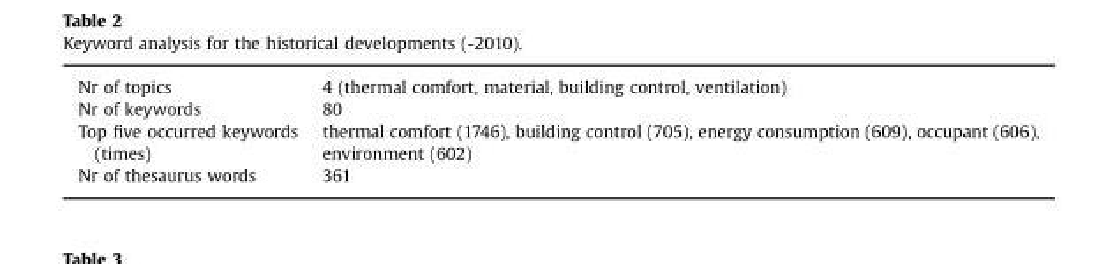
<table><tbody><tr><td>Nr of topics</td><td>4 (thermal comfort, material, building control, ventilation)</td></tr><tr><td>Nr of keywords</td><td>80</td></tr><tr><td>Top five occurred keywords (times)</td><td>thermal comfort (1746), building control (705), energy consumption (609), occupant (606), environment (602)</td></tr><tr><td>Nr of thesaurus words</td><td>361</td></tr></tbody></table>